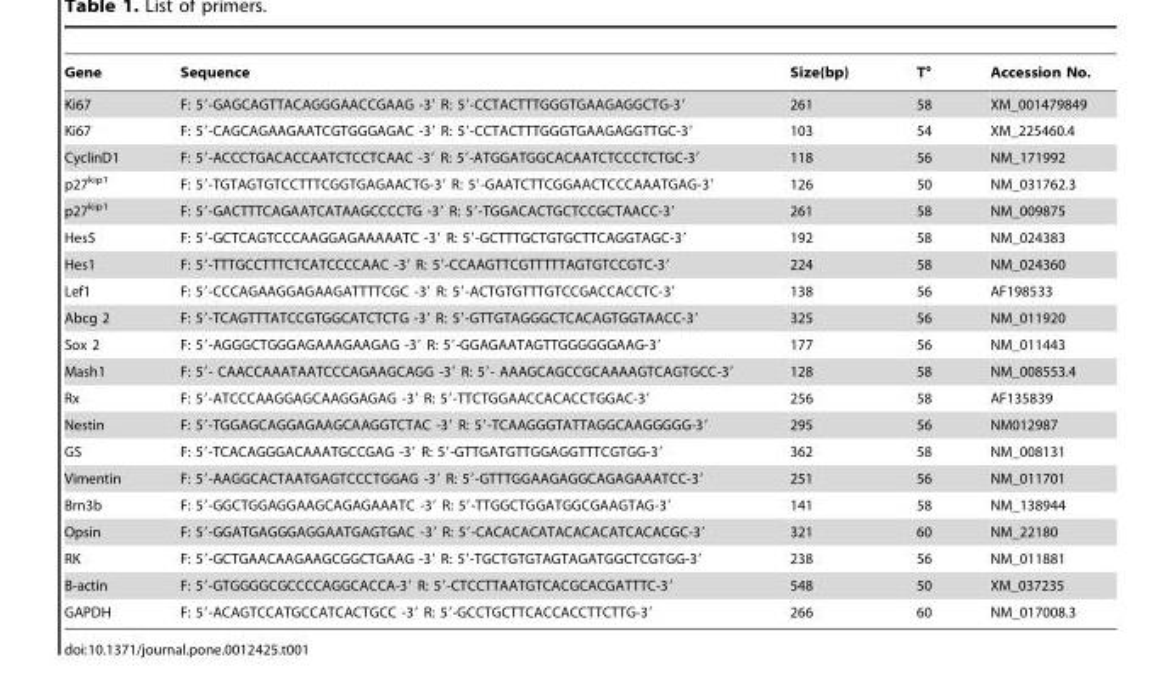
<table><thead><tr><td>Gene</td><td>Sequence</td><td>Size(bp)</td><td>T°</td><td>Accession No.</td></tr></thead><tbody><tr><td>Ki67</td><td>F: 5′-GAGCAGTTACAGGGAACCGAAG -3′ R: 5′-CCTACTTTGGGTGAAGAGGCTG-3′</td><td>261</td><td>58</td><td>XM_001479849</td></tr><tr><td>Ki67</td><td>F: 5′-CAGCAGAAGAATCGTGGGAGAC -3′ R: 5′-CCTACTTTGGGTGAAGAGGTTGC-3′</td><td>103</td><td>54</td><td>XM_225460.4</td></tr><tr><td>CyclinD1</td><td>F: 5′-ACCCTGACACCAATCTCCTCAAC -3′ R: 5′-ATGGATGGCACAATCTCCCTCTGC-3′</td><td>118</td><td>56</td><td>NM_171992</td></tr><tr><td>p27<sup>kip1</sup></td><td>F: 5′-TGTAGTGTCCTTTCGGTGAGAACTG-3′ R: 5′-GAATCTTCGGAACTCCCAAATGAG-3′</td><td>126</td><td>50</td><td>NM_031762.3</td></tr><tr><td>p27<sup>kip1</sup></td><td>F: 5′-GACTTTCAGAATCATAAGCCCCTG -3′ R: 5′-TGGACACTGCTCCGCTAACC-3′</td><td>261</td><td>58</td><td>NM_009875</td></tr><tr><td>Hes5</td><td>F: 5′-GCTCAGTCCCAAGGAGAAAAATC -3′ R: 5′-GCTTTGCTGTGCTTCAGGTAGC-3′</td><td>192</td><td>58</td><td>NM_024383</td></tr><tr><td>Hes1</td><td>F: 5′-TTTGCCTTTCTCATCCCCAAC -3′ R: 5′-CCAAGTTCGTTTTTAGTGTCCGTC-3′</td><td>224</td><td>58</td><td>NM_024360</td></tr><tr><td>Lef1</td><td>F: 5′-CCCAGAAGGAGAAGATTTTCGC -3′ R: 5′-ACTGTGTTTGTCCGACCACCTC-3′</td><td>138</td><td>56</td><td>AF198533</td></tr><tr><td>Abcg 2</td><td>F: 5′-TCAGTTTATCCGTGGCATCTCTG -3′ R: 5′-GTTGTAGGGCTCACAGTGGTAACC-3′</td><td>325</td><td>56</td><td>NM_011920</td></tr><tr><td>Sox 2</td><td>F: 5′-AGGGCTGGGAGAAAGAAGAG -3′ R: 5′-GGAGAATAGTTGGGGGGAAG-3′</td><td>177</td><td>56</td><td>NM_011443</td></tr><tr><td>Mash1</td><td>F: 5′- CAACCAAATAATCCCAGAAGCAGG -3′ R: 5′- AAAGCAGCCGCAAAAGTCAGTGCC-3′</td><td>128</td><td>58</td><td>NM_008553.4</td></tr><tr><td>Rx</td><td>F: 5′-ATCCCAAGGAGCAAGGAGAG -3′ R: 5′-TTCTGGAACCACACCTGGAC-3′</td><td>256</td><td>58</td><td>AF135839</td></tr><tr><td>Nestin</td><td>F: 5′-TGGAGCAGGAGAAGCAAGGTCTAC -3′ R: 5′-TCAAGGGTATTAGGCAAGGGGG-3′</td><td>295</td><td>56</td><td>NM012987</td></tr><tr><td>GS</td><td>F: 5′-TCACAGGGACAAATGCCGAG -3′ R: 5′-GTTGATGTTGGAGGTTTCGTGG-3′</td><td>362</td><td>58</td><td>NM_008131</td></tr><tr><td>Vimentin</td><td>F: 5′-AAGGCACTAATGAGTCCCTGGAG -3′ R: 5′-GTTTGGAAGAGGCAGAGAAATCC-3′</td><td>251</td><td>56</td><td>NM_011701</td></tr><tr><td>Brn3b</td><td>F: 5′-GGCTGGAGGAAGCAGAGAAATC -3′ R: 5′-TTGGCTGGATGGCGAAGTAG-3′</td><td>141</td><td>58</td><td>NM_138944</td></tr><tr><td>Opsin</td><td>F: 5′-GGATGAGGGAGGAATGAGTGAC -3′ R: 5′-CACACACATACACACATCACACGC-3′</td><td>321</td><td>60</td><td>NM_22180</td></tr><tr><td>RK</td><td>F: 5′-GCTGAACAAGAAGCGGCTGAAG -3′ R: 5′-TGCTGTGTAGTAGATGGCTCGTGG-3′</td><td>238</td><td>56</td><td>NM_011881</td></tr><tr><td>B-actin</td><td>F: 5′-GTGGGGCGCCCCAGGCACCA-3′ R: 5′-CTCCTTAATGTCACGCACGATTTC-3′</td><td>548</td><td>50</td><td>XM_037235</td></tr><tr><td>GAPDH</td><td>F: 5′-ACAGTCCATGCCATCACTGCC -3′ R: 5′-GCCTGCTTCACCACCTTCTTG-3′</td><td>266</td><td>60</td><td>NM_017008.3</td></tr></tbody></table>